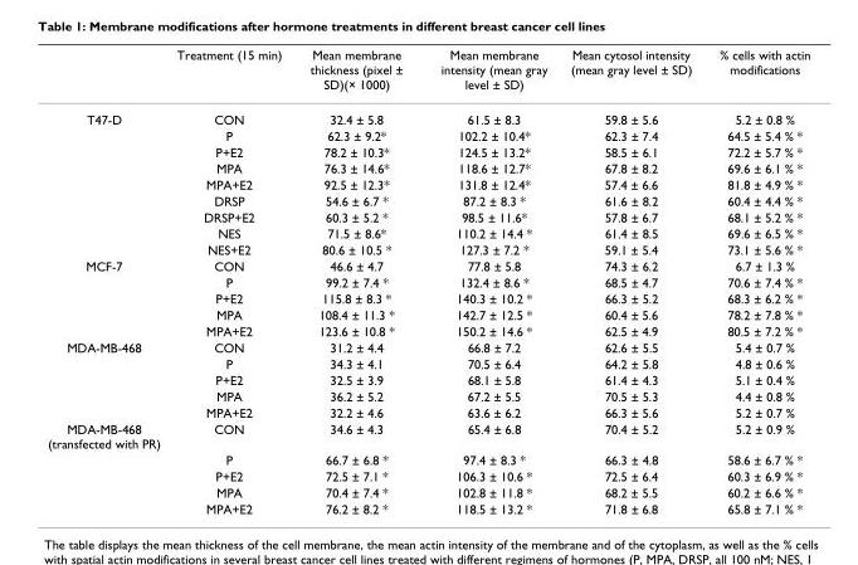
<table><thead><tr><td></td><td>Treatment (15 min)</td><td>Mean membrane thickness (pixel ± SD)(× 1000)</td><td>Mean membrane intensity (mean gray level ± SD)</td><td>Mean cytosol intensity (mean gray level ± SD)</td><td>% cells with actin modifications</td></tr></thead><tbody><tr><td rowspan="9">T47-D</td><td>CON</td><td>32.4 ± 5.8</td><td>61.5 ± 8.3</td><td>59.8 ± 5.6</td><td>5.2 ± 0.8 %</td></tr><tr><td>P</td><td>62.3 ± 9.2*</td><td>102.2 ± 10.4*</td><td>62.3 ± 7.4</td><td>64.5 ± 5.4 % *</td></tr><tr><td>P+E2</td><td>78.2 ± 10.3*</td><td>124.5 ± 13.2*</td><td>58.5 ± 6.1</td><td>72.2 ± 5.7 % *</td></tr><tr><td>MPA</td><td>76.3 ± 14.6*</td><td>118.6 ± 12.7*</td><td>67.8 ± 8.2</td><td>69.6 ± 6.1 % *</td></tr><tr><td>MPA+E2</td><td>92.5 ± 12.3*</td><td>131.8 ± 12.4*</td><td>57.4 ± 6.6</td><td>81.8 ± 4.9 % *</td></tr><tr><td>DRSP</td><td>54.6 ± 6.7 *</td><td>87.2 ± 8.3 *</td><td>61.6 ± 8.2</td><td>60.4 ± 4.4 % *</td></tr><tr><td>DRSP+E2</td><td>60.3 ± 5.2 *</td><td>98.5 ± 11.6*</td><td>57.8 ± 6.7</td><td>68.1 ± 5.2 % *</td></tr><tr><td>NES</td><td>71.5 ± 8.6*</td><td>110.2 ± 14.4 *</td><td>61.4 ± 8.5</td><td>69.6 ± 6.5 % *</td></tr><tr><td>NES+E2</td><td>80.6 ± 10.5 *</td><td>127.3 ± 7.2 *</td><td>59.1 ± 5.4</td><td>73.1 ± 5.6 % *</td></tr><tr><td rowspan="5">MCF-7</td><td>CON</td><td>46.6 ± 4.7</td><td>77.8 ± 5.8</td><td>74.3 ± 6.2</td><td>6.7 ± 1.3 %</td></tr><tr><td>P</td><td>99.2 ± 7.4 *</td><td>132.4 ± 8.6 *</td><td>68.5 ± 4.7</td><td>70.6 ± 7.4 % *</td></tr><tr><td>P+E2</td><td>115.8 ± 8.3 *</td><td>140.3 ± 10.2 *</td><td>66.3 ± 5.2</td><td>68.3 ± 6.2 % *</td></tr><tr><td>MPA</td><td>108.4 ± 11.3 *</td><td>142.7 ± 12.5 *</td><td>60.4 ± 5.6</td><td>78.2 ± 7.8 % *</td></tr><tr><td>MPA+E2</td><td>123.6 ± 10.8 *</td><td>150.2 ± 14.6 *</td><td>62.5 ± 4.9</td><td>80.5 ± 7.2 % *</td></tr><tr><td rowspan="5">MDA-MB-468</td><td>CON</td><td>31.2 ± 4.4</td><td>66.8 ± 7.2</td><td>62.6 ± 5.5</td><td>5.4 ± 0.7 %</td></tr><tr><td>P</td><td>34.3 ± 4.1</td><td>70.5 ± 6.4</td><td>64.2 ± 5.8</td><td>4.8 ± 0.6 %</td></tr><tr><td>P+E2</td><td>32.5 ± 3.9</td><td>68.1 ± 5.8</td><td>61.4 ± 4.3</td><td>5.1 ± 0.4 %</td></tr><tr><td>MPA</td><td>36.2 ± 5.2</td><td>67.2 ± 5.5</td><td>70.5 ± 5.3</td><td>4.4 ± 0.8 %</td></tr><tr><td>MPA+E2</td><td>32.2 ± 4.6</td><td>63.6 ± 6.2</td><td>66.3 ± 5.6</td><td>5.2 ± 0.7 %</td></tr><tr><td rowspan="5">MDA-MB-468 (transfected with PR)</td><td>CON</td><td>34.6 ± 4.3</td><td>65.4 ± 6.8</td><td>70.4 ± 5.2</td><td>5.2 ± 0.9 %</td></tr><tr><td>P</td><td>66.7 ± 6.8 *</td><td>97.4 ± 8.3 *</td><td>66.3 ± 4.8</td><td>58.6 ± 6.7 % *</td></tr><tr><td>P+E2</td><td>72.5 ± 7.1 *</td><td>106.3 ± 10.6 *</td><td>72.5 ± 6.4</td><td>60.3 ± 6.9 % *</td></tr><tr><td>MPA</td><td>70.4 ± 7.4 *</td><td>102.8 ± 11.8 *</td><td>68.2 ± 5.5</td><td>60.2 ± 6.6 % *</td></tr><tr><td>MPA+E2</td><td>76.2 ± 8.2 *</td><td>118.5 ± 13.2 *</td><td>71.8 ± 6.8</td><td>65.8 ± 7.1 % *</td></tr></tbody></table>